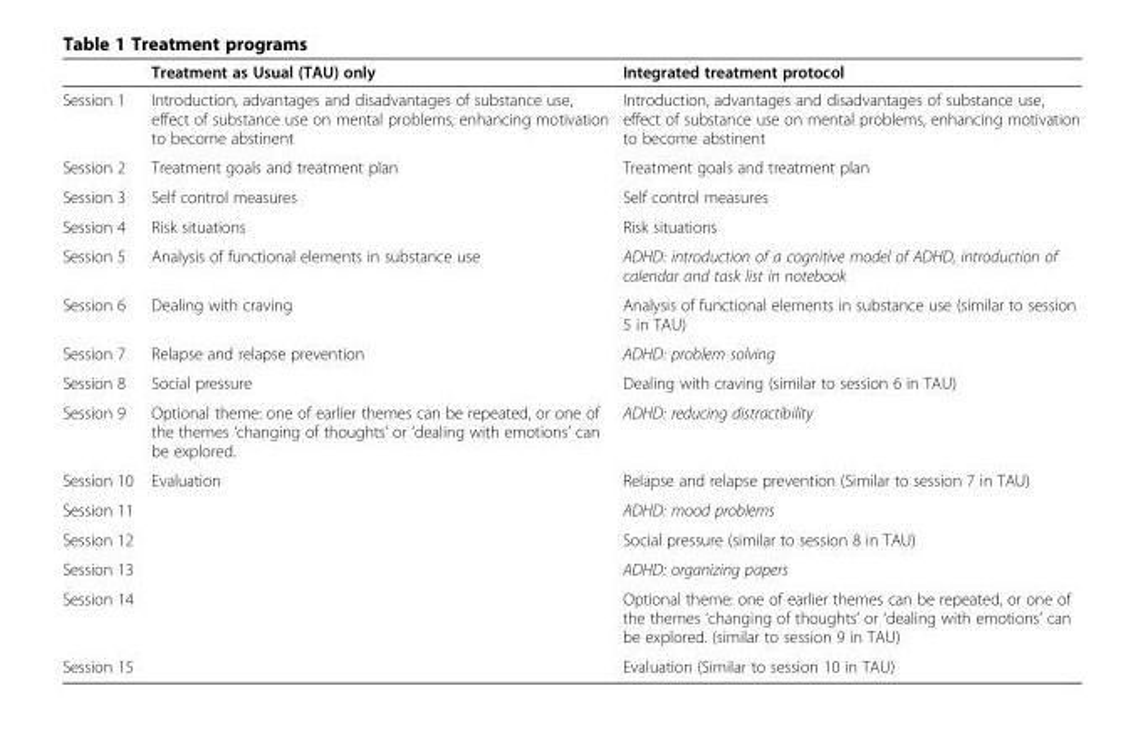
<table><thead><tr><td></td><td>Treatment as Usual (TAU) only</td><td>Integrated treatment protocol</td></tr></thead><tbody><tr><td>Session 1</td><td>Introduction, advantages and disadvantages of substance use, effect of substance use on mental problems, enhancing motivation to become abstinent</td><td>Introduction, advantages and disadvantages of substance use, effect of substance use on mental problems, enhancing motivation to become abstinent</td></tr><tr><td>Session 2</td><td>Treatment goals and treatment plan</td><td>Treatment goals and treatment plan</td></tr><tr><td>Session 3</td><td>Self control measures</td><td>Self control measures</td></tr><tr><td>Session 4</td><td>Risk situations</td><td>Risk situations</td></tr><tr><td>Session 5</td><td>Analysis of functional elements in substance use</td><td>ADHD: introduction of a cognitive model of ADHD, introduction of calendar and task list in notebook</td></tr><tr><td>Session 6</td><td>Dealing with craving</td><td>Analysis of functional elements in substance use (similar to session 5 in TAU)</td></tr><tr><td>Session 7</td><td>Relapse and relapse prevention</td><td>ADHD: problem solving</td></tr><tr><td>Session 8</td><td>Social pressure</td><td>Dealing with craving (similar to session 6 in TAU)</td></tr><tr><td>Session 9</td><td>Optional theme: one of earlier themes can be repeated, or one of the themes ‘changing of thoughts’ or ‘dealing with emotions’ can be explored.</td><td>ADHD: reducing distractibility</td></tr><tr><td>Session 10</td><td>Evaluation</td><td>Relapse and relapse prevention (Similar to session 7 in TAU)</td></tr><tr><td>Session 11</td><td></td><td>ADHD: mood problems</td></tr><tr><td>Session 12</td><td></td><td>Social pressure (similar to session 8 in TAU)</td></tr><tr><td>Session 13</td><td></td><td>ADHD: organizing papers</td></tr><tr><td>Session 14</td><td></td><td>Optional theme: one of earlier themes can be repeated, or one of the themes ‘changing of thoughts’ or ‘dealing with emotions’ can be explored. (similar to session 9 in TAU)</td></tr><tr><td>Session 15</td><td></td><td>Evaluation (Similar to session 10 in TAU)</td></tr></tbody></table>